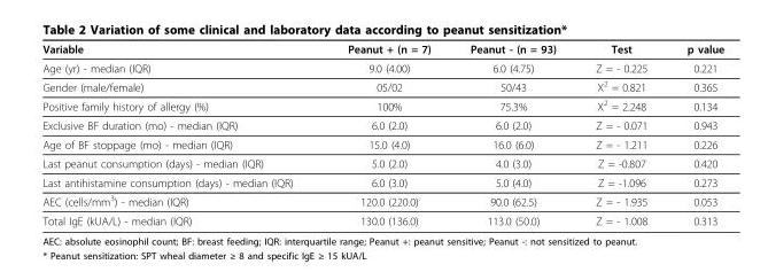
<table><thead><tr><td>Variable</td><td>Peanut + (n = 7)</td><td>Peanut - (n = 93)</td><td>Test</td><td>p value</td></tr></thead><tbody><tr><td>Age (yr) - median (IQR)</td><td>9.0 (4.00)</td><td>6.0 (4.75)</td><td>Z = - 0.225</td><td>0.221</td></tr><tr><td>Gender (male/female)</td><td>05/02</td><td>50/43</td><td>X<sup>2</sup> = 0.821</td><td>0.365</td></tr><tr><td>Positive family history of allergy (%)</td><td>100%</td><td>75.3%</td><td>X<sup>2</sup> = 2.248</td><td>0.134</td></tr><tr><td>Exclusive BF duration (mo) - median (IQR)</td><td>6.0 (2.0)</td><td>6.0 (2.0)</td><td>Z = - 0.071</td><td>0.943</td></tr><tr><td>Age of BF stoppage (mo) - median (IQR)</td><td>15.0 (4.0)</td><td>16.0 (6.0)</td><td>Z = - 1.211</td><td>0.226</td></tr><tr><td>Last peanut consumption (days) - median (IQR)</td><td>5.0 (2.0)</td><td>4.0 (3.0)</td><td>Z = -0.807</td><td>0.420</td></tr><tr><td>Last antihistamine consumption (days) - median (IQR)</td><td>6.0 (3.0)</td><td>5.0 (4.0)</td><td>Z = -1.096</td><td>0.273</td></tr><tr><td>AEC (cells/mm<sup>3</sup>) - median (IQR)</td><td>120.0 (220.0)</td><td>90.0 (62.5)</td><td>Z = - 1.935</td><td>0.053</td></tr><tr><td>Total IgE (kUA/L) - median (IQR)</td><td>130.0 (136.0)</td><td>113.0 (50.0)</td><td>Z = - 1.008</td><td>0.313</td></tr></tbody></table>